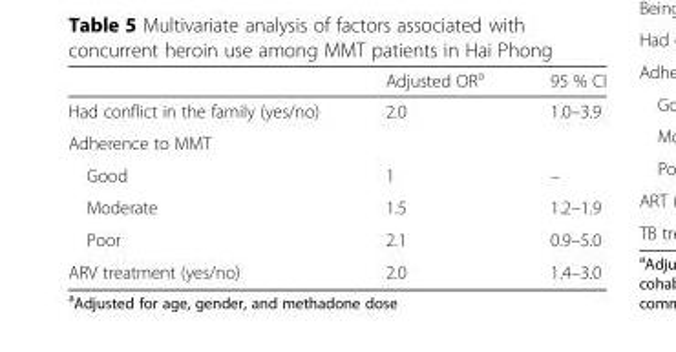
<table><thead><tr><td></td><td>Adjusted OR<sup>a</sup></td><td>95 % CI</td></tr></thead><tbody><tr><td>Had conflict in the family (yes/no)</td><td>2.0</td><td>1.0–3.9</td></tr><tr><td colspan="3">Adherence to MMT</td></tr><tr><td>Good</td><td>1</td><td>–</td></tr><tr><td>Moderate</td><td>1.5</td><td>1.2–1.9</td></tr><tr><td>Poor</td><td>2.1</td><td>0.9–5.0</td></tr><tr><td>ARV treatment (yes/no)</td><td>2.0</td><td>1.4–3.0</td></tr></tbody></table>